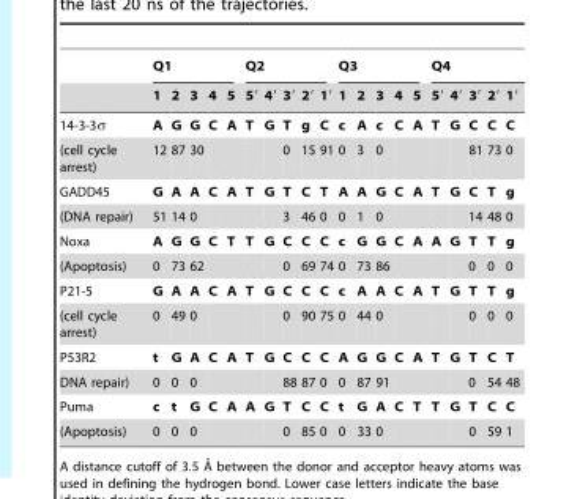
<table><thead><tr><td rowspan="2"></td><td colspan="5">Q1</td><td colspan="5">Q2</td><td colspan="5">Q3</td><td colspan="5">Q4</td></tr><tr><td>1</td><td>2</td><td>3</td><td>4</td><td>5</td><td>5′</td><td>4′</td><td>3′</td><td>2′</td><td>1′</td><td>1</td><td>2</td><td>3</td><td>4</td><td>5</td><td>5′</td><td>4′</td><td>3′</td><td>2′</td><td>1′</td></tr></thead><tbody><tr><td>14-3-3σ</td><td>A</td><td>G</td><td>G</td><td>C</td><td>A</td><td>T</td><td>G</td><td>T</td><td>g</td><td>C</td><td>c</td><td>A</td><td>c</td><td>C</td><td>A</td><td>T</td><td>G</td><td>C</td><td>C</td><td>C</td></tr><tr><td>(cell cycle arrest)</td><td>12</td><td>87</td><td>30</td><td></td><td></td><td></td><td></td><td>0</td><td>15</td><td>91</td><td>0</td><td>3</td><td>0</td><td></td><td></td><td></td><td></td><td>81</td><td>73</td><td>0</td></tr><tr><td>GADD45</td><td>G</td><td>A</td><td>A</td><td>C</td><td>A</td><td>T</td><td>G</td><td>T</td><td>C</td><td>T</td><td>A</td><td>A</td><td>G</td><td>C</td><td>A</td><td>T</td><td>G</td><td>C</td><td>T</td><td>g</td></tr><tr><td>(DNA repair)</td><td>51</td><td>14</td><td>0</td><td></td><td></td><td></td><td></td><td>3</td><td>46</td><td>0</td><td>0</td><td>1</td><td>0</td><td></td><td></td><td></td><td></td><td>14</td><td>48</td><td>0</td></tr><tr><td>Noxa</td><td>A</td><td>G</td><td>G</td><td>C</td><td>T</td><td>T</td><td>G</td><td>C</td><td>C</td><td>C</td><td>c</td><td>G</td><td>G</td><td>C</td><td>A</td><td>A</td><td>G</td><td>T</td><td>T</td><td>g</td></tr><tr><td>(Apoptosis)</td><td>0</td><td>73</td><td>62</td><td></td><td></td><td></td><td></td><td>0</td><td>69</td><td>74</td><td>0</td><td>73</td><td>86</td><td></td><td></td><td></td><td></td><td>0</td><td>0</td><td>0</td></tr><tr><td>P21-5</td><td>G</td><td>A</td><td>A</td><td>C</td><td>A</td><td>T</td><td>G</td><td>C</td><td>C</td><td>C</td><td>c</td><td>A</td><td>A</td><td>C</td><td>A</td><td>T</td><td>G</td><td>T</td><td>T</td><td>g</td></tr><tr><td>(cell cycle arrest)</td><td>0</td><td>49</td><td>0</td><td></td><td></td><td></td><td></td><td>0</td><td>90</td><td>75</td><td>0</td><td>44</td><td>0</td><td></td><td></td><td></td><td></td><td>0</td><td>0</td><td>0</td></tr><tr><td>P53R2</td><td>t</td><td>G</td><td>A</td><td>C</td><td>A</td><td>T</td><td>G</td><td>C</td><td>C</td><td>C</td><td>A</td><td>G</td><td>G</td><td>C</td><td>A</td><td>T</td><td>G</td><td>T</td><td>C</td><td>T</td></tr><tr><td>DNA repair)</td><td>0</td><td>0</td><td>0</td><td></td><td></td><td></td><td></td><td>88</td><td>87</td><td>0</td><td>0</td><td>87</td><td>91</td><td></td><td></td><td></td><td></td><td>0</td><td>54</td><td>48</td></tr><tr><td>Puma</td><td>c</td><td>t</td><td>G</td><td>C</td><td>A</td><td>A</td><td>G</td><td>T</td><td>C</td><td>C</td><td>t</td><td>G</td><td>A</td><td>C</td><td>T</td><td>T</td><td>G</td><td>T</td><td>C</td><td>C</td></tr><tr><td>(Apoptosis)</td><td>0</td><td>0</td><td>0</td><td></td><td></td><td></td><td></td><td>0</td><td>85</td><td>0</td><td>0</td><td>33</td><td>0</td><td></td><td></td><td></td><td></td><td>0</td><td>59</td><td>1</td></tr></tbody></table>